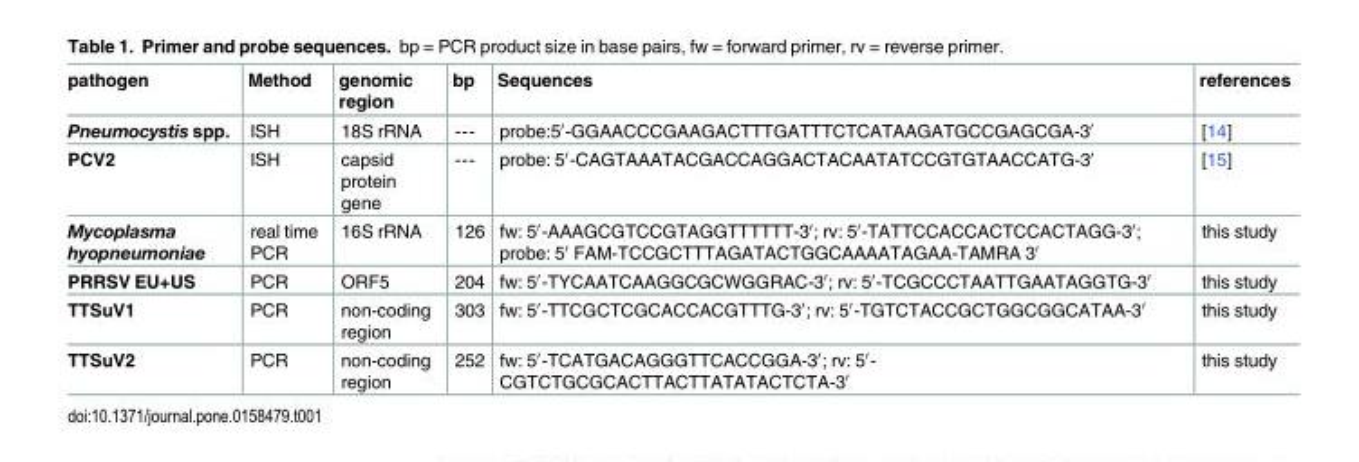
<table><thead><tr><td>pathogen</td><td>Method</td><td>genomic region</td><td>bp</td><td>Sequences</td><td>references</td></tr></thead><tbody><tr><td>Pneumocystis spp.</td><td>ISH</td><td>18S rRNA</td><td>---</td><td>probe:5′-GGAACCCGAAGACTTTGATTTCTCATAAGATGCCGAGCGA-3′</td><td>[14]</td></tr><tr><td>PCV2</td><td>ISH</td><td>capsid protein gene</td><td>---</td><td>probe: 5′-CAGTAAATACGACCAGGACTACAATATCCGTGTAACCATG-3′</td><td>[15]</td></tr><tr><td>Mycoplasma hyopneumoniae</td><td>real time PCR</td><td>16S rRNA</td><td>126</td><td>fw: 5′-AAAGCGTCCGTAGGTTTTTT-3′; rv: 5′-TATTCCACCACTCCACTAGG-3′; probe: 5′ FAM-TCCGCTTTAGATACTGGCAAAATAGAA-TAMRA 3′</td><td>this study</td></tr><tr><td>PRRSV EU+US</td><td>PCR</td><td>ORF5</td><td>204</td><td>fw: 5′-TYCAATCAAGGCGCWGGRAC-3′; rv: 5′-TCGCCCTAATTGAATAGGTG-3′</td><td>this study</td></tr><tr><td>TTSuV1</td><td>PCR</td><td>non-coding region</td><td>303</td><td>fw: 5′-TTCGCTCGCACCACGTTTG-3′; rv: 5′-TGTCTACCGCTGGCGGCATAA-3′</td><td>this study</td></tr><tr><td>TTSuV2</td><td>PCR</td><td>non-coding region</td><td>252</td><td>fw: 5′-TCATGACAGGGTTCACCGGA-3′; rv: 5′- CGTCTGCGCACTTACTTATATACTCTA-3′</td><td>this study</td></tr></tbody></table>